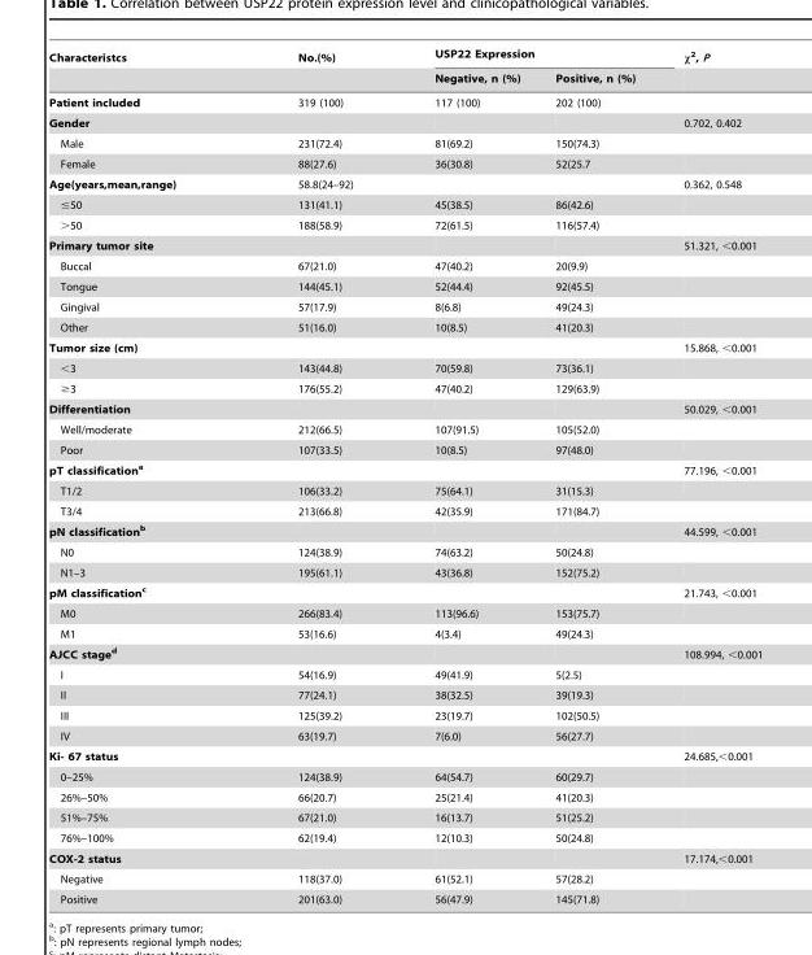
<table><thead><tr><td rowspan="2">Characteristcs</td><td rowspan="2">No.(%)</td><td colspan="2">USP22 Expression</td><td rowspan="2">κ<sup>2</sup>, P</td></tr><tr><td>Negative, n (%)</td><td>Positive, n (%)</td></tr></thead><tbody><tr><td>Patient included</td><td>319 (100)</td><td>117 (100)</td><td>202 (100)</td><td></td></tr><tr><td>Gender</td><td></td><td></td><td></td><td>0.702, 0.402</td></tr><tr><td>Male</td><td>231(72.4)</td><td>81(69.2)</td><td>150(74.3)</td><td></td></tr><tr><td>Female</td><td>88(27.6)</td><td>36(30.8)</td><td>52(25.7</td><td></td></tr><tr><td>Age(years,mean,range)</td><td>58.8(24–92)</td><td></td><td></td><td>0.362, 0.548</td></tr><tr><td>≤50</td><td>131(41.1)</td><td>45(38.5)</td><td>86(42.6)</td><td></td></tr><tr><td>&gt;50</td><td>188(58.9)</td><td>72(61.5)</td><td>116(57.4)</td><td></td></tr><tr><td>Primary tumor site</td><td></td><td></td><td></td><td>51.321, &lt;0.001</td></tr><tr><td>Buccal</td><td>67(21.0)</td><td>47(40.2)</td><td>20(9.9)</td><td></td></tr><tr><td>Tongue</td><td>144(45.1)</td><td>52(44.4)</td><td>92(45.5)</td><td></td></tr><tr><td>Gingival</td><td>57(17.9)</td><td>8(6.8)</td><td>49(24.3)</td><td></td></tr><tr><td>Other</td><td>51(16.0)</td><td>10(8.5)</td><td>41(20.3)</td><td></td></tr><tr><td>Tumor size (cm)</td><td></td><td></td><td></td><td>15.868, &lt;0.001</td></tr><tr><td>&lt;3</td><td>143(44.8)</td><td>70(59.8)</td><td>73(36.1)</td><td></td></tr><tr><td>≥3</td><td>176(55.2)</td><td>47(40.2)</td><td>129(63.9)</td><td></td></tr><tr><td>Differentiation</td><td></td><td></td><td></td><td>50.029, &lt;0.001</td></tr><tr><td>Well/moderate</td><td>212(66.5)</td><td>107(91.5)</td><td>105(52.0)</td><td></td></tr><tr><td>Poor</td><td>107(33.5)</td><td>10(8.5)</td><td>97(48.0)</td><td></td></tr><tr><td>pT classificationa</td><td></td><td></td><td></td><td>77.196, &lt;0.001</td></tr><tr><td>T1/2</td><td>106(33.2)</td><td>75(64.1)</td><td>31(15.3)</td><td></td></tr><tr><td>T3/4</td><td>213(66.8)</td><td>42(35.9)</td><td>171(84.7)</td><td></td></tr><tr><td>pN classificationb</td><td></td><td></td><td></td><td>44.599, &lt;0.001</td></tr><tr><td>N0</td><td>124(38.9)</td><td>74(63.2)</td><td>50(24.8)</td><td></td></tr><tr><td>N1–3</td><td>195(61.1)</td><td>43(36.8)</td><td>152(75.2)</td><td></td></tr><tr><td>pM classificationc</td><td></td><td></td><td></td><td>21.743, &lt;0.001</td></tr><tr><td>M0</td><td>266(83.4)</td><td>113(96.6)</td><td>153(75.7)</td><td></td></tr><tr><td>M1</td><td>53(16.6)</td><td>4(3.4)</td><td>49(24.3)</td><td></td></tr><tr><td>AJCC staged</td><td></td><td></td><td></td><td>108.994, &lt;0.001</td></tr><tr><td>I</td><td>54(16.9)</td><td>49(41.9)</td><td>5(2.5)</td><td></td></tr><tr><td>II</td><td>77(24.1)</td><td>38(32.5)</td><td>39(19.3)</td><td></td></tr><tr><td>III</td><td>125(39.2)</td><td>23(19.7)</td><td>102(50.5)</td><td></td></tr><tr><td>IV</td><td>63(19.7)</td><td>7(6.0)</td><td>56(27.7)</td><td></td></tr><tr><td>Ki- 67 status</td><td></td><td></td><td></td><td>24.685,&lt;0.001</td></tr><tr><td>0–25%</td><td>124(38.9)</td><td>64(54.7)</td><td>60(29.7)</td><td></td></tr><tr><td>26%–50%</td><td>66(20.7)</td><td>25(21.4)</td><td>41(20.3)</td><td></td></tr><tr><td>51%–75%</td><td>67(21.0)</td><td>16(13.7)</td><td>51(25.2)</td><td></td></tr><tr><td>76%–100%</td><td>62(19.4)</td><td>12(10.3)</td><td>50(24.8)</td><td></td></tr><tr><td>COX-2 status</td><td></td><td></td><td></td><td>17.174,&lt;0.001</td></tr><tr><td>Negative</td><td>118(37.0)</td><td>61(52.1)</td><td>57(28.2)</td><td></td></tr><tr><td>Positive</td><td>201(63.0)</td><td>56(47.9)</td><td>145(71.8)</td><td></td></tr></tbody></table>